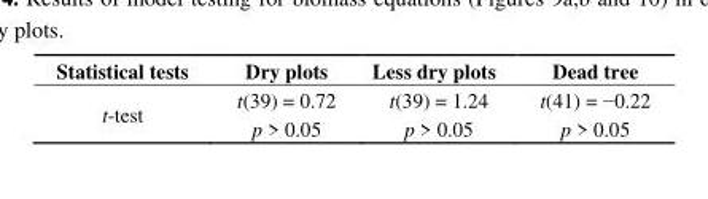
<table><thead><tr><td>Statistical tests</td><td>Dry plots</td><td>Less dry plots</td><td>Dead tree</td></tr></thead><tbody><tr><td>t-test</td><td>t(39) = 0.72 p &gt; 0.05</td><td>t(39) = 1.24 p &gt; 0.05</td><td>t(41) = −0.22 p &gt; 0.05</td></tr></tbody></table>